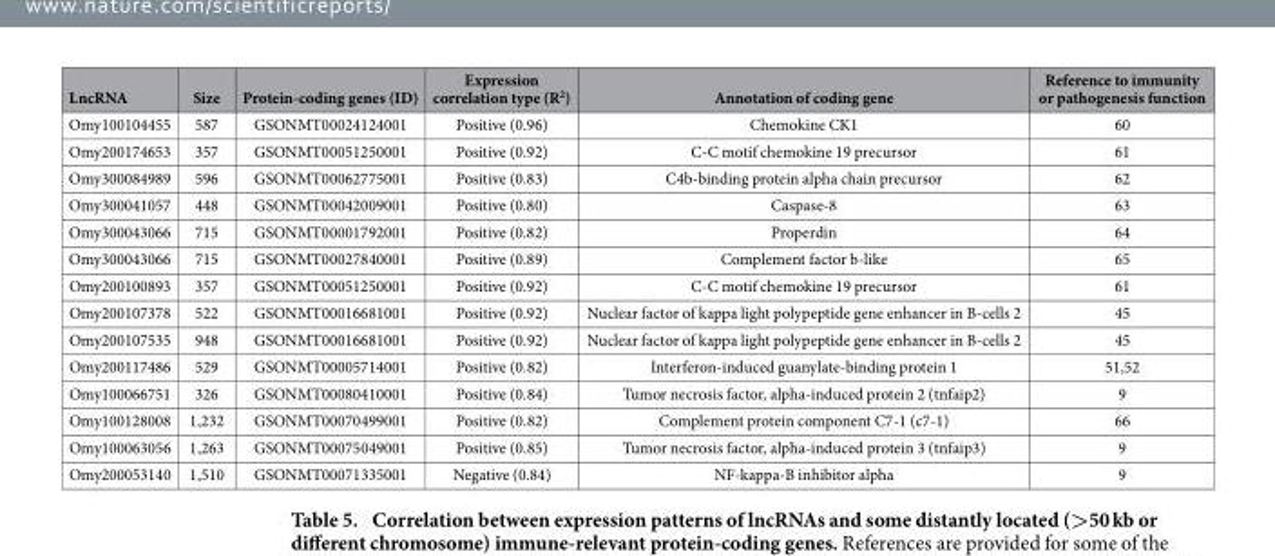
<table><thead><tr><td>LncRNA</td><td>Size</td><td>Protein-coding genes (ID)</td><td>Expression correlation type (R<sup>2</sup>)</td><td>Annotation of coding gene</td><td>Reference to immunity or pathogenesis function</td></tr></thead><tbody><tr><td>Omy100104455</td><td>587</td><td>GSONMT00024124001</td><td>Positive (0.96)</td><td>Chemokine CK1</td><td>60</td></tr><tr><td>Omy200174653</td><td>357</td><td>GSONMT00051250001</td><td>Positive (0.92)</td><td>C-C motif chemokine 19 precursor</td><td>61</td></tr><tr><td>Omy300084989</td><td>596</td><td>GSONMT00062775001</td><td>Positive (0.83)</td><td>C4b-binding protein alpha chain precursor</td><td>62</td></tr><tr><td>Omy300041057</td><td>448</td><td>GSONMT00042009001</td><td>Positive (0.80)</td><td>Caspase-8</td><td>63</td></tr><tr><td>Omy300043066</td><td>715</td><td>GSONMT00001792001</td><td>Positive (0.82)</td><td>Properdin</td><td>64</td></tr><tr><td>Omy300043066</td><td>715</td><td>GSONMT00027840001</td><td>Positive (0.89)</td><td>Complement factor b-like</td><td>65</td></tr><tr><td>Omy200100893</td><td>357</td><td>GSONMT00051250001</td><td>Positive (0.92)</td><td>C-C motif chemokine 19 precursor</td><td>61</td></tr><tr><td>Omy200107378</td><td>522</td><td>GSONMT00016681001</td><td>Positive (0.92)</td><td>Nuclear factor of kappa light polypeptide gene enhancer in B-cells 2</td><td>45</td></tr><tr><td>Omy200107535</td><td>948</td><td>GSONMT00016681001</td><td>Positive (0.92)</td><td>Nuclear factor of kappa light polypeptide gene enhancer in B-cells 2</td><td>45</td></tr><tr><td>Omy200117486</td><td>529</td><td>GSONMT00005714001</td><td>Positive (0.82)</td><td>Interferon-induced guanylate-binding protein 1</td><td>51,52</td></tr><tr><td>Omy100066751</td><td>326</td><td>GSONMT00080410001</td><td>Positive (0.84)</td><td>Tumor necrosis factor, alpha-induced protein 2 (tnfaip2)</td><td>9</td></tr><tr><td>Omy100128008</td><td>1,232</td><td>GSONMT00070499001</td><td>Positive (0.82)</td><td>Complement protein component C7-1 (c7-1)</td><td>66</td></tr><tr><td>Omy100063056</td><td>1,263</td><td>GSONMT00075049001</td><td>Positive (0.85)</td><td>Tumor necrosis factor, alpha-induced protein 3 (tnfaip3)</td><td>9</td></tr><tr><td>Omy200053140</td><td>1,510</td><td>GSONMT00071335001</td><td>Negative (0.84)</td><td>NF-kappa-B inhibitor alpha</td><td>9</td></tr></tbody></table>